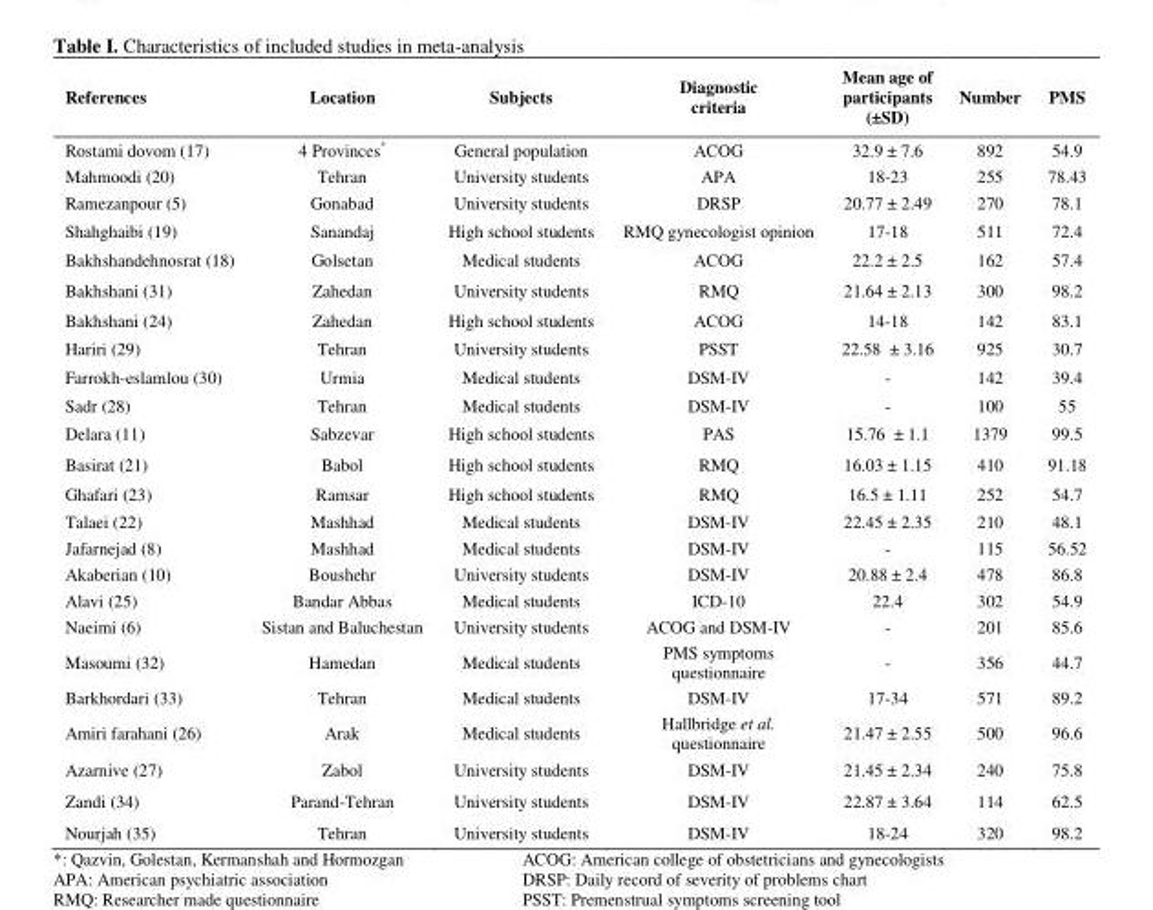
<table><thead><tr><td>References</td><td>Location</td><td>Subjects</td><td>Diagnostic criteria</td><td>Mean age of participants (±SD)</td><td>Number</td><td>PMS</td></tr></thead><tbody><tr><td>Rostami dovom (17)</td><td>4 Provinces*</td><td>General population</td><td>ACOG</td><td>32.9 ± 7.6</td><td>892</td><td>54.9</td></tr><tr><td>Mahmoodi (20)</td><td>Tehran</td><td>University students</td><td>APA</td><td>18-23</td><td>255</td><td>78.43</td></tr><tr><td>Ramezanpour (5)</td><td>Gonabad</td><td>University students</td><td>DRSP</td><td>20.77 ± 2.49</td><td>270</td><td>78.1</td></tr><tr><td>Shahghaibi (19)</td><td>Sanandaj</td><td>High school students</td><td>RMQ gynecologist opinion</td><td>17-18</td><td>511</td><td>72.4</td></tr><tr><td>Bakhshandehnosrat (18)</td><td>Golsetan</td><td>Medical students</td><td>ACOG</td><td>22.2 ± 2.5</td><td>162</td><td>57.4</td></tr><tr><td>Bakhshani (31)</td><td>Zahedan</td><td>University students</td><td>RMQ</td><td>21.64 ± 2.13</td><td>300</td><td>98.2</td></tr><tr><td>Bakhshani (24)</td><td>Zahedan</td><td>High school students</td><td>ACOG</td><td>14-18</td><td>142</td><td>83.1</td></tr><tr><td>Hariri (29)</td><td>Tehran</td><td>University students</td><td>PSST</td><td>22.58 ± 3.16</td><td>925</td><td>30.7</td></tr><tr><td>Farrokh-eslamlou (30)</td><td>Urmia</td><td>Medical students</td><td>DSM-IV</td><td>-</td><td>142</td><td>39.4</td></tr><tr><td>Sadr (28)</td><td>Tehran</td><td>Medical students</td><td>DSM-IV</td><td>-</td><td>100</td><td>55</td></tr><tr><td>Delara (11)</td><td>Sabzevar</td><td>High school students</td><td>PAS</td><td>15.76 ± 1.1</td><td>1379</td><td>99.5</td></tr><tr><td>Basirat (21)</td><td>Babol</td><td>High school students</td><td>RMQ</td><td>16.03 ± 1.15</td><td>410</td><td>91.18</td></tr><tr><td>Ghafari (23)</td><td>Ramsar</td><td>High school students</td><td>RMQ</td><td>16.5 ± 1.11</td><td>252</td><td>54.7</td></tr><tr><td>Talaei (22)</td><td>Mashhad</td><td>Medical students</td><td>DSM-IV</td><td>22.45 ± 2.35</td><td>210</td><td>48.1</td></tr><tr><td>Jafarnejad (8)</td><td>Mashhad</td><td>Medical students</td><td>DSM-IV</td><td>-</td><td>115</td><td>56.52</td></tr><tr><td>Akaberian (10)</td><td>Boushehr</td><td>University students</td><td>DSM-IV</td><td>20.88 ± 2.4</td><td>478</td><td>86.8</td></tr><tr><td>Alavi (25)</td><td>Bandar Abbas</td><td>Medical students</td><td>ICD-10</td><td>22.4</td><td>302</td><td>54.9</td></tr><tr><td>Naeimi (6)</td><td>Sistan and Baluchestan</td><td>University students</td><td>ACOG and DSM-IV</td><td>-</td><td>201</td><td>85.6</td></tr><tr><td>Masoumi (32)</td><td>Hamedan</td><td>Medical students</td><td>PMS symptoms questionnaire</td><td>-</td><td>356</td><td>44.7</td></tr><tr><td>Barkhordari (33)</td><td>Tehran</td><td>Medical students</td><td>DSM-IV</td><td>17-34</td><td>571</td><td>89.2</td></tr><tr><td>Amiri farahani (26)</td><td>Arak</td><td>Medical students</td><td>Hallbridge et al. questionnaire</td><td>21.47 ± 2.55</td><td>500</td><td>96.6</td></tr><tr><td>Azarnive (27)</td><td>Zabol</td><td>University students</td><td>DSM-IV</td><td>21.45 ± 2.34</td><td>240</td><td>75.8</td></tr><tr><td>Zandi (34)</td><td>Parand-Tehran</td><td>University students</td><td>DSM-IV</td><td>22.87 ± 3.64</td><td>114</td><td>62.5</td></tr><tr><td>Nourjah (35)</td><td>Tehran</td><td>University students</td><td>DSM-IV</td><td>18-24</td><td>320</td><td>98.2</td></tr></tbody></table>